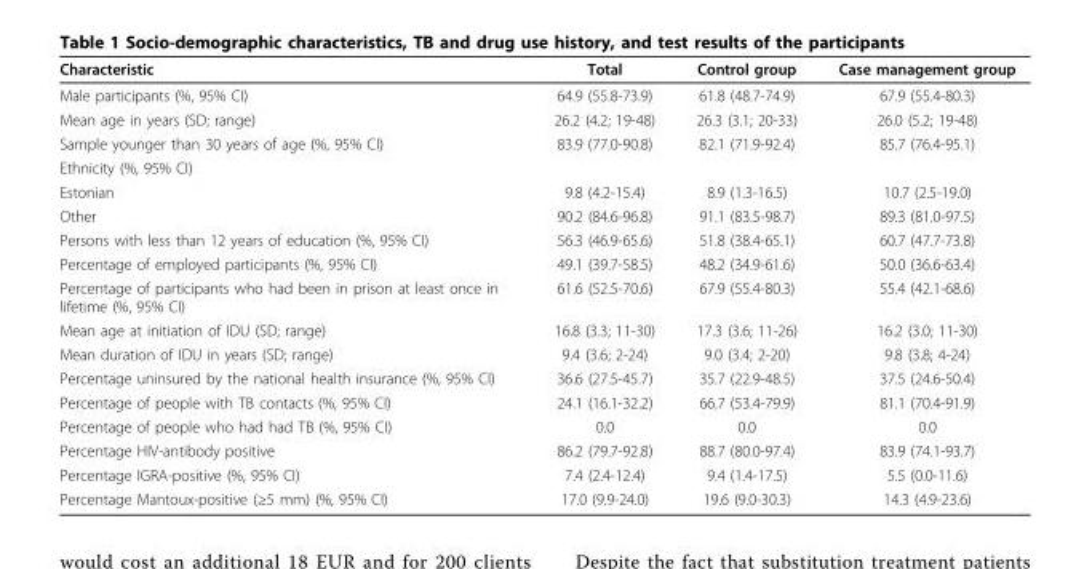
<table><thead><tr><td>Characteristic</td><td>Total</td><td>Control group</td><td>Case management group</td></tr></thead><tbody><tr><td>Male participants (%, 95% CI)</td><td>64.9 (55.8-73.9)</td><td>61.8 (48.7-74.9)</td><td>67.9 (55.4-80.3)</td></tr><tr><td>Mean age in years (SD; range)</td><td>26.2 (4.2; 19-48)</td><td>26.3 (3.1; 20-33)</td><td>26.0 (5.2; 19-48)</td></tr><tr><td>Sample younger than 30 years of age (%, 95% CI)</td><td>83.9 (77.0-90.8)</td><td>82.1 (71.9-92.4)</td><td>85.7 (76.4-95.1)</td></tr><tr><td colspan="4">Ethnicity (%, 95% CI)</td></tr><tr><td>Estonian</td><td>9.8 (4.2-15.4)</td><td>8.9 (1.3-16.5)</td><td>10.7 (2.5-19.0)</td></tr><tr><td>Other</td><td>90.2 (84.6-96.8)</td><td>91.1 (83.5-98.7)</td><td>89.3 (81.0-97.5)</td></tr><tr><td>Persons with less than 12 years of education (%, 95% CI)</td><td>56.3 (46.9-65.6)</td><td>51.8 (38.4-65.1)</td><td>60.7 (47.7-73.8)</td></tr><tr><td>Percentage of employed participants (%, 95% CI)</td><td>49.1 (39.7-58.5)</td><td>48.2 (34.9-61.6)</td><td>50.0 (36.6-63.4)</td></tr><tr><td>Percentage of participants who had been in prison at least once in lifetime (%, 95% CI)</td><td>61.6 (52.5-70.6)</td><td>67.9 (55.4-80.3)</td><td>55.4 (42.1-68.6)</td></tr><tr><td>Mean age at initiation of IDU (SD; range)</td><td>16.8 (3.3; 11-30)</td><td>17.3 (3.6; 11-26)</td><td>16.2 (3.0; 11-30)</td></tr><tr><td>Mean duration of IDU in years (SD; range)</td><td>9.4 (3.6; 2-24)</td><td>9.0 (3.4; 2-20)</td><td>9.8 (3.8; 4-24)</td></tr><tr><td>Percentage uninsured by the national health insurance (%, 95% CI)</td><td>36.6 (27.5-45.7)</td><td>35.7 (22.9-48.5)</td><td>37.5 (24.6-50.4)</td></tr><tr><td>Percentage of people with TB contacts (%, 95% CI)</td><td>24.1 (16.1-32.2)</td><td>66.7 (53.4-79.9)</td><td>81.1 (70.4-91.9)</td></tr><tr><td>Percentage of people who had had TB (%, 95% CI)</td><td>0.0</td><td>0.0</td><td>0.0</td></tr><tr><td>Percentage HIV-antibody positive</td><td>86.2 (79.7-92.8)</td><td>88.7 (80.0-97.4)</td><td>83.9 (74.1-93.7)</td></tr><tr><td>Percentage IGRA-positive (%, 95% CI)</td><td>7.4 (2.4-12.4)</td><td>9.4 (1.4-17.5)</td><td>5.5 (0.0-11.6)</td></tr><tr><td>Percentage Mantoux-positive (≥5 mm) (%, 95% CI)</td><td>17.0 (9.9-24.0)</td><td>19.6 (9.0-30.3)</td><td>14.3 (4.9-23.6)</td></tr></tbody></table>